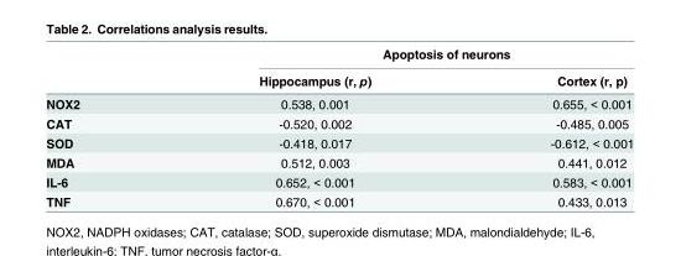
<table><thead><tr><td rowspan="2"></td><td colspan="2">Apoptosis of neurons</td></tr><tr><td>Hippocampus (r, p)</td><td>Cortex (r, p)</td></tr></thead><tbody><tr><td>NOX2</td><td>0.538, 0.001</td><td>0.655, &lt; 0.001</td></tr><tr><td>CAT</td><td>-0.520, 0.002</td><td>-0.485, 0.005</td></tr><tr><td>SOD</td><td>-0.418, 0.017</td><td>-0.612, &lt; 0.001</td></tr><tr><td>MDA</td><td>0.512, 0.003</td><td>0.441, 0.012</td></tr><tr><td>IL-6</td><td>0.652, &lt; 0.001</td><td>0.583, &lt; 0.001</td></tr><tr><td>TNF</td><td>0.670, &lt; 0.001</td><td>0.433, 0.013</td></tr></tbody></table>